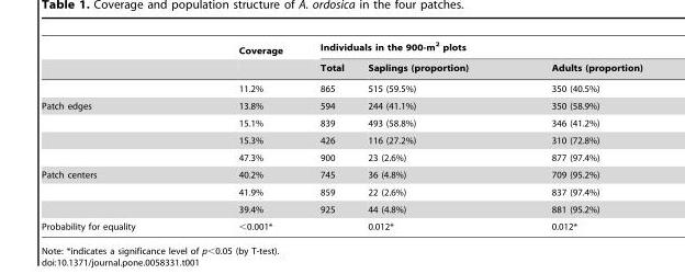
<table><thead><tr><td rowspan="2"></td><td rowspan="2">Coverage</td><td colspan="3">Individuals in the 900-m<sup>2</sup> plots</td></tr><tr><td>Total</td><td>Saplings (proportion)</td><td>Adults (proportion)</td></tr></thead><tbody><tr><td></td><td>11.2%</td><td>865</td><td>515 (59.5%)</td><td>350 (40.5%)</td></tr><tr><td rowspan="4">Patch edges</td><td>13.8%</td><td>594</td><td>244 (41.1%)</td><td>350 (58.9%)</td></tr><tr><td>15.1%</td><td>839</td><td>493 (58.8%)</td><td>346 (41.2%)</td></tr><tr><td>15.3%</td><td>426</td><td>116 (27.2%)</td><td>310 (72.8%)</td></tr><tr><td>47.3%</td><td>900</td><td>23 (2.6%)</td><td>877 (97.4%)</td></tr><tr><td rowspan="3">Patch centers</td><td>40.2%</td><td>745</td><td>36 (4.8%)</td><td>709 (95.2%)</td></tr><tr><td>41.9%</td><td>859</td><td>22 (2.6%)</td><td>837 (97.4%)</td></tr><tr><td>39.4%</td><td>925</td><td>44 (4.8%)</td><td>881 (95.2%)</td></tr><tr><td>Probability for equality</td><td>&lt;0.001*</td><td></td><td>0.012*</td><td>0.012*</td></tr></tbody></table>